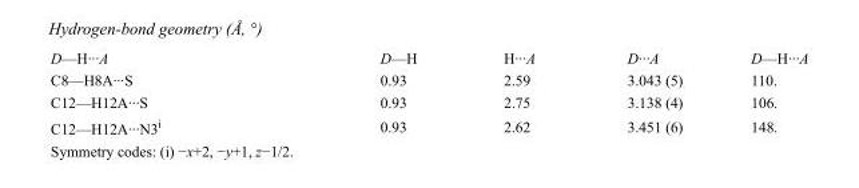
<table><tbody><tr><td>D—H···A</td><td>D—H</td><td>H···A</td><td>D···A</td><td>D—H···A</td></tr><tr><td>C8—H8A···S</td><td>0.93</td><td>2.59</td><td>3.043 (5)</td><td>110.</td></tr><tr><td>C12—H12A···S</td><td>0.93</td><td>2.75</td><td>3.138 (4)</td><td>106.</td></tr><tr><td>C12—H12A···N3<sup>i</sup></td><td>0.93</td><td>2.62</td><td>3.451 (6)</td><td>148.</td></tr></tbody></table>